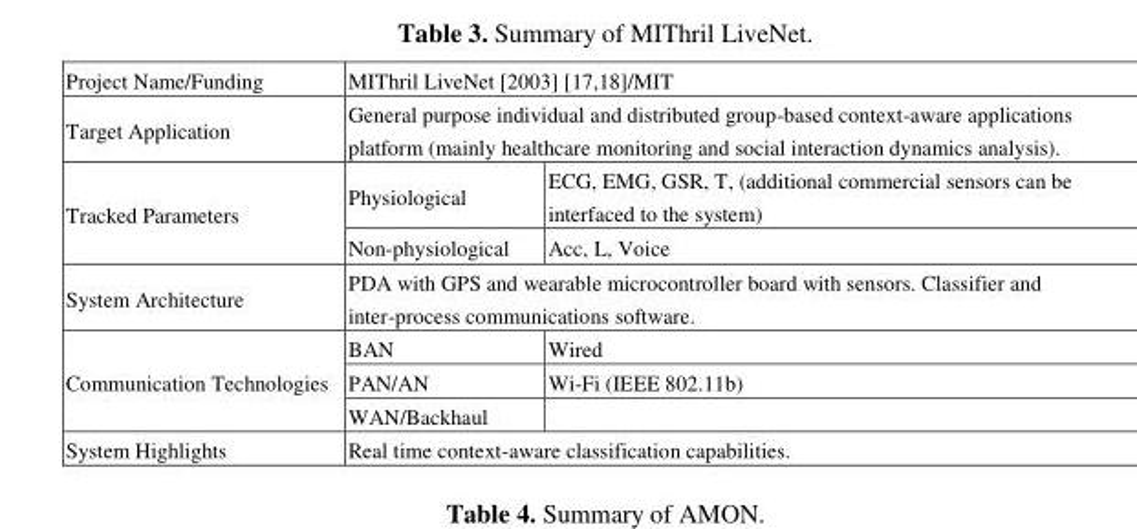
<table><tbody><tr><td>Project Name/Funding</td><td colspan="2">MIThril LiveNet [2003] [17,18]/MIT</td></tr><tr><td>Target Application</td><td colspan="2">General purpose individual and distributed group-based context-aware applications platform (mainly healthcare monitoring and social interaction dynamics analysis).</td></tr><tr><td rowspan="2">Tracked Parameters</td><td>Physiological</td><td>ECG, EMG, GSR, T, (additional commercial sensors can be interfaced to the system)</td></tr><tr><td>Non-physiological</td><td>Acc, L, Voice</td></tr><tr><td>System Architecture</td><td colspan="2">PDA with GPS and wearable microcontroller board with sensors. Classifier and inter-process communications software.</td></tr><tr><td rowspan="3">Communication Technologies</td><td>BAN</td><td>Wired</td></tr><tr><td>PAN/AN</td><td>Wi-Fi (IEEE 802.11b)</td></tr><tr><td>WAN/Backhaul</td><td></td></tr><tr><td>System Highlights</td><td colspan="2">Real time context-aware classification capabilities.</td></tr></tbody></table>